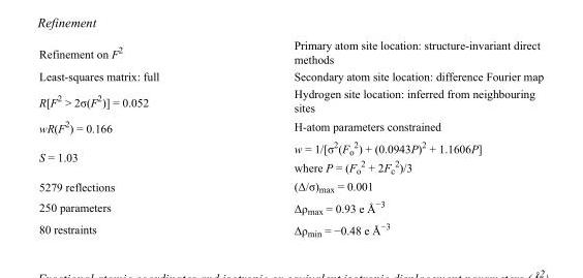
<table><tbody><tr><td>Refinement on F<sup>2</sup></td><td>Primary atom site location: structure-invariant direct methods</td></tr><tr><td>Least-squares matrix: full</td><td>Secondary atom site location: difference Fourier map</td></tr><tr><td>R[F<sup>2</sup> &gt; 2σ(F<sup>2</sup>)] = 0.052</td><td>Hydrogen site location: inferred from neighbouring sites</td></tr><tr><td>wR(F<sup>2</sup>) = 0.166</td><td>H-atom parameters constrained</td></tr><tr><td>S = 1.03</td><td>w = 1/[σ<sup>2</sup>(F<sub>o</sub> <sup>2</sup>) + (0.0943P)<sup>2</sup> + 1.1606P] where P = (F<sub>o</sub> <sup>2</sup> + 2F<sub>c</sub> <sup>2</sup>)/3</td></tr><tr><td>5279 reflections</td><td>(Δ/σ)<sub>max</sub> = 0.001</td></tr><tr><td>250 parameters</td><td>Δρ<sub>max</sub> = 0.93 e Å<sup>−3</sup></td></tr><tr><td>80 restraints</td><td>Δρ<sub>min</sub> = −0.48 e Å<sup>−3</sup></td></tr></tbody></table>